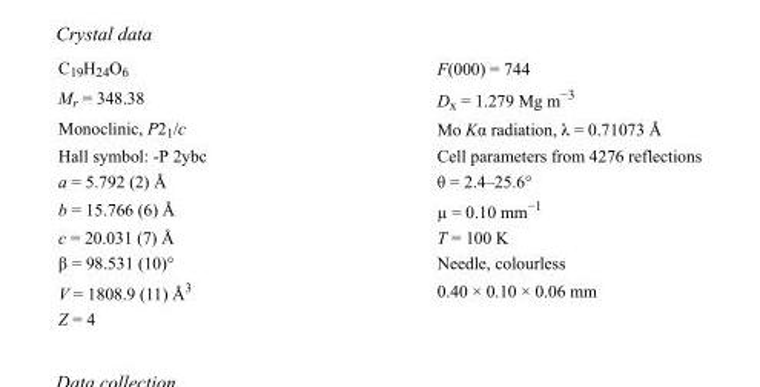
<table><tbody><tr><td>C<sub>19</sub>H<sub>24</sub>O<sub>6</sub></td><td>F(000) = 744</td></tr><tr><td>M<sub>r</sub> = 348.38</td><td>D<sub>x</sub> = 1.279 Mg m<sup>−3</sup></td></tr><tr><td>Monoclinic, P2<sub>1</sub>/c</td><td>Mo Kα radiation, λ = 0.71073 Å</td></tr><tr><td>Hall symbol: -P 2ybc</td><td>Cell parameters from 4276 reflections</td></tr><tr><td>a = 5.792 (2) Å</td><td>θ = 2.4–25.6°</td></tr><tr><td>b = 15.766 (6) Å</td><td>µ = 0.10 mm<sup>−1</sup></td></tr><tr><td>c = 20.031 (7) Å</td><td>T = 100 K</td></tr><tr><td>β = 98.531 (10)°</td><td>Needle, colourless</td></tr><tr><td>V = 1808.9 (11) Å<sup>3</sup></td><td>0.40 × 0.10 × 0.06 mm</td></tr><tr><td>Z = 4</td><td></td></tr></tbody></table>